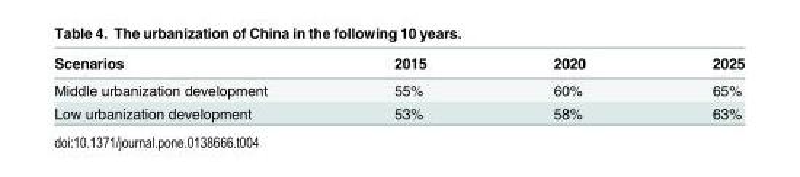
<table><thead><tr><td>Scenarios</td><td>2015</td><td>2020</td><td>2025</td></tr></thead><tbody><tr><td>Middle urbanization development</td><td>55%</td><td>60%</td><td>65%</td></tr><tr><td>Low urbanization development</td><td>53%</td><td>58%</td><td>63%</td></tr></tbody></table>